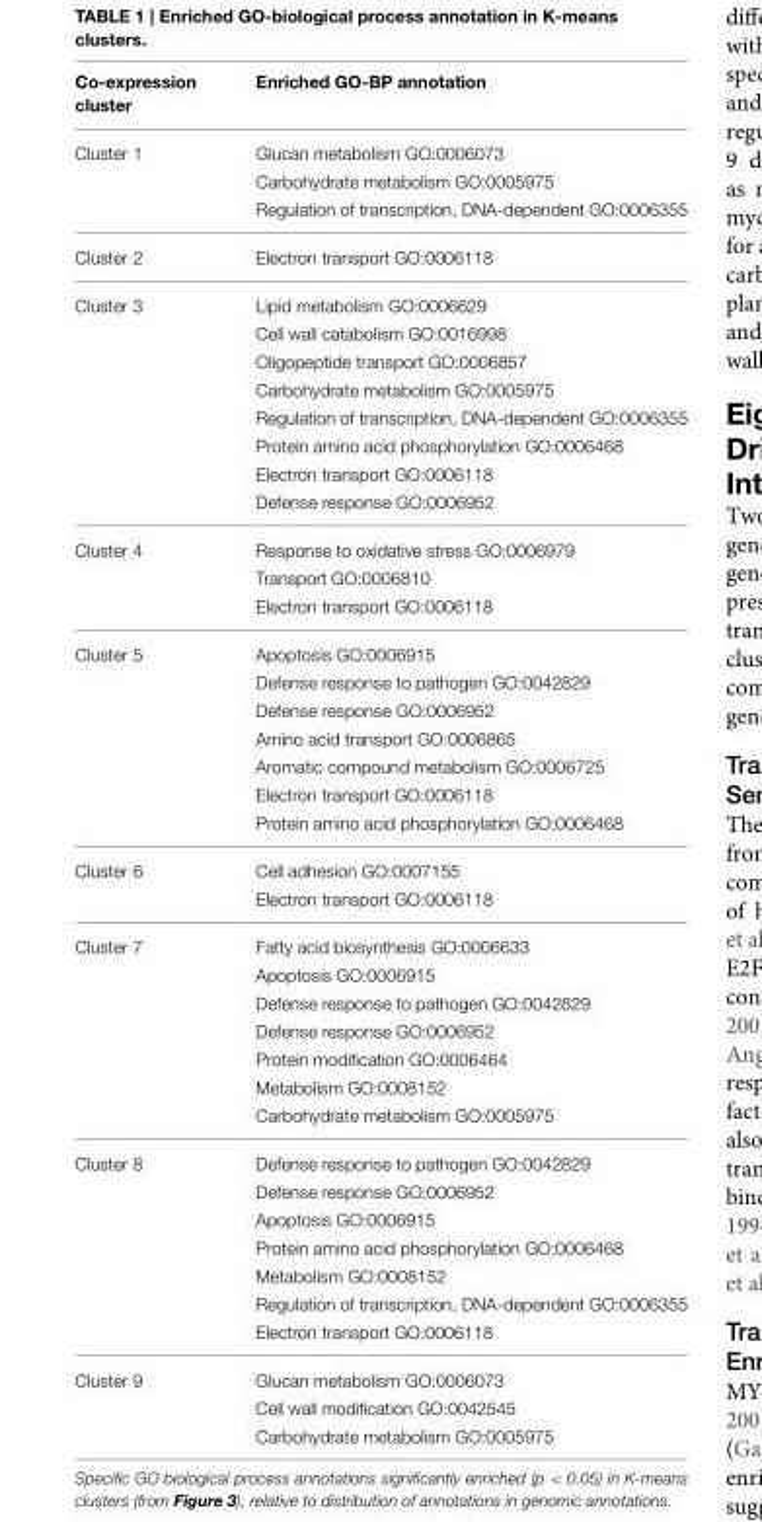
<table><thead><tr><td>Co-expression cluster</td><td>Enriched GO-BP annotation</td></tr></thead><tbody><tr><td rowspan="3">Cluster 1</td><td>Glucan metabolism GO:0006073</td></tr><tr><td>Carbohydrate metabolism GO:0005975</td></tr><tr><td>Regulation of transcription, DNA-dependent GO:0006355</td></tr><tr><td>Cluster 2</td><td>Electron transport GO:0006118</td></tr><tr><td rowspan="8">Cluster 3</td><td>Lipid metabolism GO:0006629</td></tr><tr><td>Cell wall catabolism GO:0016998</td></tr><tr><td>Oligopeptide transport GO:0006857</td></tr><tr><td>Carbohydrate metabolism GO:0005975</td></tr><tr><td>Regulation of transcription, DNA-dependent GO:0006355</td></tr><tr><td>Protein amino acid phosphorylation GO:0006468</td></tr><tr><td>Electron transport GO:0006118</td></tr><tr><td>Defense response GO:0006952</td></tr><tr><td rowspan="3">Cluster 4</td><td>Response to oxidative stress GO:0006979</td></tr><tr><td>Transport GO:0006810</td></tr><tr><td>Electron transport GO:0006118</td></tr><tr><td rowspan="7">Cluster 5</td><td>Apoptosis GO:0006915</td></tr><tr><td>Defense response to pathogen GO:0042829</td></tr><tr><td>Defense response GO:0006952</td></tr><tr><td>Amino acid transport GO:0006865</td></tr><tr><td>Aromatic compound metabolism GO:0006725</td></tr><tr><td>Electron transport GO:0006118</td></tr><tr><td>Protein amino acid phosphorylation GO:0006468</td></tr><tr><td rowspan="2">Cluster 6</td><td>Cell adhesion GO:0007155</td></tr><tr><td>Electron transport GO:0006118</td></tr><tr><td rowspan="7">Cluster 7</td><td>Fatty acid biosynthesis GO:0006633</td></tr><tr><td>Apoptosis GO:0006915</td></tr><tr><td>Defense response to pathogen GO:0042829</td></tr><tr><td>Defense response GO:0006952</td></tr><tr><td>Protein modification GO:0006464</td></tr><tr><td>Metabolism GO:0008152</td></tr><tr><td>Carbohydrate metabolism GO:0005975</td></tr><tr><td rowspan="7">Cluster 8</td><td>Defense response to pathogen GO:0042829</td></tr><tr><td>Defense response GO:0006952</td></tr><tr><td>Apoptosis GO:0006915</td></tr><tr><td>Protein amino acid phosphorylation GO:0006468</td></tr><tr><td>Metabolism GO:0008152</td></tr><tr><td>Regulation of transcription, DNA-dependent GO:0006355</td></tr><tr><td>Electron transport GO:0006118</td></tr><tr><td rowspan="3">Cluster 9</td><td>Glucan metabolism GO:0006073</td></tr><tr><td>Cell wall modification GO:0042545</td></tr><tr><td>Carbohydrate metabolism GO:0005975</td></tr></tbody></table>